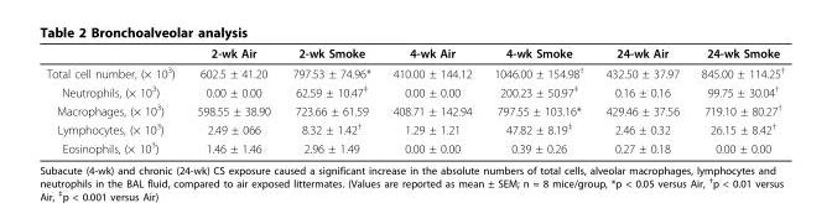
<table><thead><tr><td></td><td>2-wk Air</td><td>2-wk Smoke</td><td>4-wk Air</td><td>4-wk Smoke</td><td>24-wk Air</td><td>24-wk Smoke</td></tr></thead><tbody><tr><td>Total cell number, (× 10<sup>3</sup>)</td><td>602.5 ± 41.20</td><td>797.53 ± 74.96*</td><td>410.00 ± 144.12</td><td>1046.00 ± 154.98<sup>†</sup></td><td>432.50 ± 37.97</td><td>845.00 ± 114.25<sup>†</sup></td></tr><tr><td>Neutrophils, (× 10<sup>3</sup>)</td><td>0.00 ± 0.00</td><td>62.59 ± 10.47<sup>‡</sup></td><td>0.00 ± 0.00</td><td>200.23 ± 50.97<sup>‡</sup></td><td>0.16 ± 0.16</td><td>99.75 ± 30.04<sup>†</sup></td></tr><tr><td>Macrophages, (× 10<sup>3</sup>)</td><td>598.55 ± 38.90</td><td>723.66 ± 61.59</td><td>408.71 ± 142.94</td><td>797.55 ± 103.16*</td><td>429.46 ± 37.56</td><td>719.10 ± 80.27<sup>†</sup></td></tr><tr><td>Lymphocytes, (× 10<sup>3</sup>)</td><td>2.49 ± 066</td><td>8.32 ± 1.42<sup>†</sup></td><td>1.29 ± 1.21</td><td>47.82 ± 8.19<sup>‡</sup></td><td>2.46 ± 0.32</td><td>26.15 ± 8.42<sup>†</sup></td></tr><tr><td>Eosinophils, (× 10<sup>3</sup>)</td><td>1.46 ± 1.46</td><td>2.96 ± 1.49</td><td>0.00 ± 0.00</td><td>0.39 ± 0.26</td><td>0.27 ± 0.18</td><td>0.00 ± 0.00</td></tr></tbody></table>